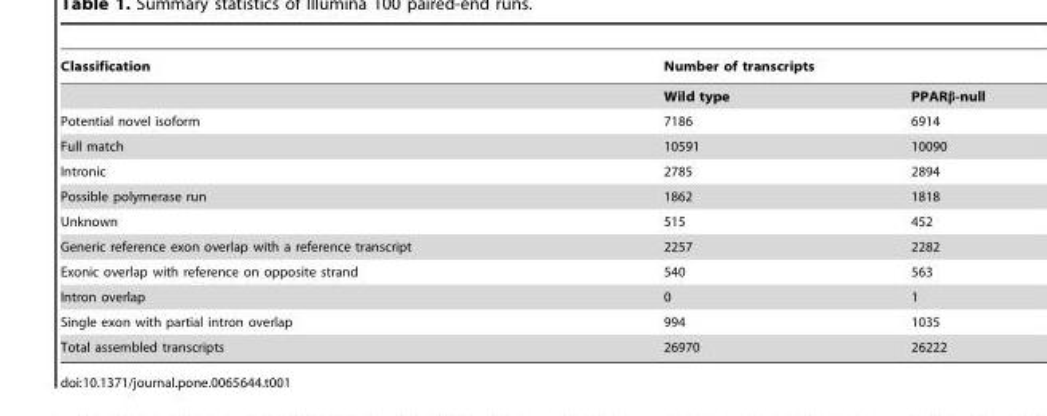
<table><thead><tr><td rowspan="2">Classification</td><td colspan="2">Number of transcripts</td></tr><tr><td>Wild type</td><td>PPARβ-null</td></tr></thead><tbody><tr><td>Potential novel isoform</td><td>7186</td><td>6914</td></tr><tr><td>Full match</td><td>10591</td><td>10090</td></tr><tr><td>Intronic</td><td>2785</td><td>2894</td></tr><tr><td>Possible polymerase run</td><td>1862</td><td>1818</td></tr><tr><td>Unknown</td><td>515</td><td>452</td></tr><tr><td>Generic reference exon overlap with a reference transcript</td><td>2257</td><td>2282</td></tr><tr><td>Exonic overlap with reference on opposite strand</td><td>540</td><td>563</td></tr><tr><td>Intron overlap</td><td>0</td><td>1</td></tr><tr><td>Single exon with partial intron overlap</td><td>994</td><td>1035</td></tr><tr><td>Total assembled transcripts</td><td>26970</td><td>26222</td></tr></tbody></table>